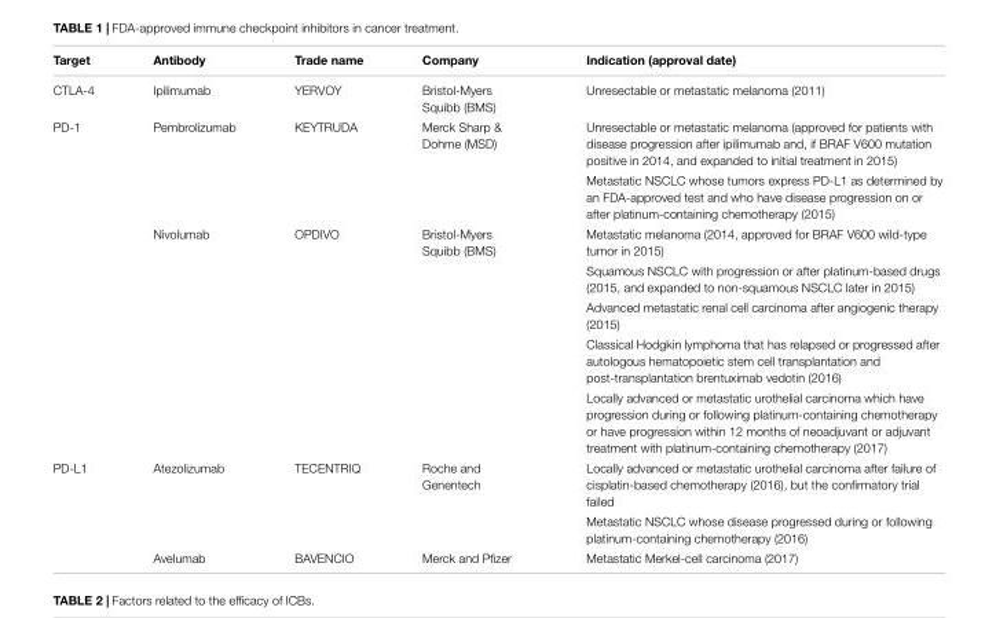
<table><thead><tr><td>Target</td><td>Antibody</td><td>Trade name</td><td>Company</td><td>Indication (approval date)</td></tr></thead><tbody><tr><td>CTLA-4</td><td>Ipilimumab</td><td>YERVOY</td><td>Bristol-Myers Squibb (BMS)</td><td>Unresectable or metastatic melanoma (2011)</td></tr><tr><td rowspan="7">PD-1</td><td>Pembrolizumab</td><td>KEYTRUDA</td><td>Merck Sharp &amp; Dohme (MSD)</td><td>Unresectable or metastatic melanoma (approved for patients with disease progression after ipilimumab and, if BRAF V600 mutation positive in 2014, and expanded to initial treatment in 2015)</td></tr><tr><td></td><td></td><td></td><td>Metastatic NSCLC whose tumors express PD-L1 as determined by an FDA-approved test and who have disease progression on or after platinum-containing chemotherapy (2015)</td></tr><tr><td>Nivolumab</td><td>OPDIVO</td><td>Bristol-Myers Squibb (BMS)</td><td>Metastatic melanoma (2014, approved for BRAF V600 wild-type tumor in 2015)</td></tr><tr><td></td><td></td><td></td><td>Squamous NSCLC with progression or after platinum-based drugs (2015, and expanded to non-squamous NSCLC later in 2015)</td></tr><tr><td></td><td></td><td></td><td>Advanced metastatic renal cell carcinoma after angiogenic therapy (2015)</td></tr><tr><td></td><td></td><td></td><td>Classical Hodgkin lymphoma that has relapsed or progressed after autologous hematopoietic stem cell transplantation and post-transplantation brentuximab vedotin (2016)</td></tr><tr><td></td><td></td><td></td><td>Locally advanced or metastatic urothelial carcinoma which have progression during or following platinum-containing chemotherapy or have progression within 12 months of neoadjuvant or adjuvant treatment with platinum-containing chemotherapy (2017)</td></tr><tr><td rowspan="3">PD-L1</td><td>Atezolizumab</td><td>TECENTRIQ</td><td>Roche and Genentech</td><td>Locally advanced or metastatic urothelial carcinoma after failure of cisplatin-based chemotherapy (2016), but the confirmatory trial failed</td></tr><tr><td></td><td></td><td></td><td>Metastatic NSCLC whose disease progressed during or following platinum-containing chemotherapy (2016)</td></tr><tr><td>Avelumab</td><td>BAVENCIO</td><td>Merck and Pfizer</td><td>Metastatic Merkel-cell carcinoma (2017)</td></tr></tbody></table>